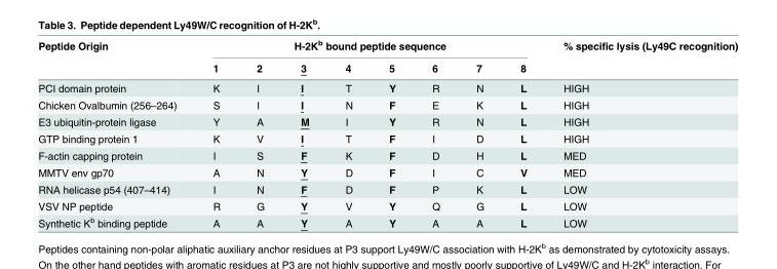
<table><thead><tr><td rowspan="2">Peptide Origin</td><td colspan="8">H-2K<sup>b</sup> bound peptide sequence</td><td rowspan="2">% specific lysis (Ly49C recognition)</td></tr><tr><td>1</td><td>2</td><td>3</td><td>4</td><td>5</td><td>6</td><td>7</td><td>8</td></tr></thead><tbody><tr><td>PCI domain protein</td><td>K</td><td>I</td><td>I</td><td>T</td><td>Y</td><td>R</td><td>N</td><td>L</td><td>HIGH</td></tr><tr><td>Chicken Ovalbumin (256–264)</td><td>S</td><td>I</td><td>I</td><td>N</td><td>F</td><td>E</td><td>K</td><td>L</td><td>HIGH</td></tr><tr><td>E3 ubiquitin-protein ligase</td><td>Y</td><td>A</td><td>M</td><td>I</td><td>Y</td><td>R</td><td>N</td><td>L</td><td>HIGH</td></tr><tr><td>GTP binding protein 1</td><td>K</td><td>V</td><td>I</td><td>T</td><td>F</td><td>I</td><td>D</td><td>L</td><td>HIGH</td></tr><tr><td>F-actin capping protein</td><td>I</td><td>S</td><td>F</td><td>K</td><td>F</td><td>D</td><td>H</td><td>L</td><td>MED</td></tr><tr><td>MMTV env gp70</td><td>A</td><td>N</td><td>Y</td><td>D</td><td>F</td><td>I</td><td>C</td><td>V</td><td>MED</td></tr><tr><td>RNA helicase p54 (407–414)</td><td>I</td><td>N</td><td>F</td><td>D</td><td>F</td><td>P</td><td>K</td><td>L</td><td>LOW</td></tr><tr><td>VSV NP peptide</td><td>R</td><td>G</td><td>Y</td><td>V</td><td>Y</td><td>Q</td><td>G</td><td>L</td><td>LOW</td></tr><tr><td>Synthetic K<sup>b</sup> binding peptide</td><td>A</td><td>A</td><td>Y</td><td>A</td><td>Y</td><td>A</td><td>A</td><td>L</td><td>LOW</td></tr></tbody></table>